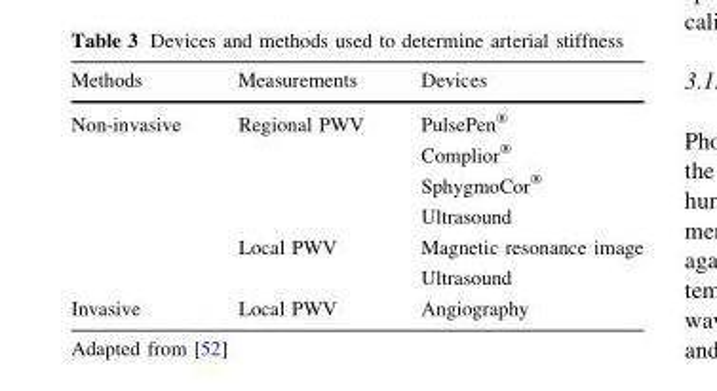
<table><thead><tr><td>Methods</td><td>Measurements</td><td>Devices</td></tr></thead><tbody><tr><td rowspan="6">Non-invasive</td><td rowspan="4">Regional PWV</td><td>PulsePen<sup>®</sup></td></tr><tr><td>Complior<sup>®</sup></td></tr><tr><td>SphygmoCor<sup>®</sup></td></tr><tr><td>Ultrasound</td></tr><tr><td rowspan="2">Local PWV</td><td>Magnetic resonance image</td></tr><tr><td>Ultrasound</td></tr><tr><td>Invasive</td><td>Local PWV</td><td>Angiography</td></tr></tbody></table>